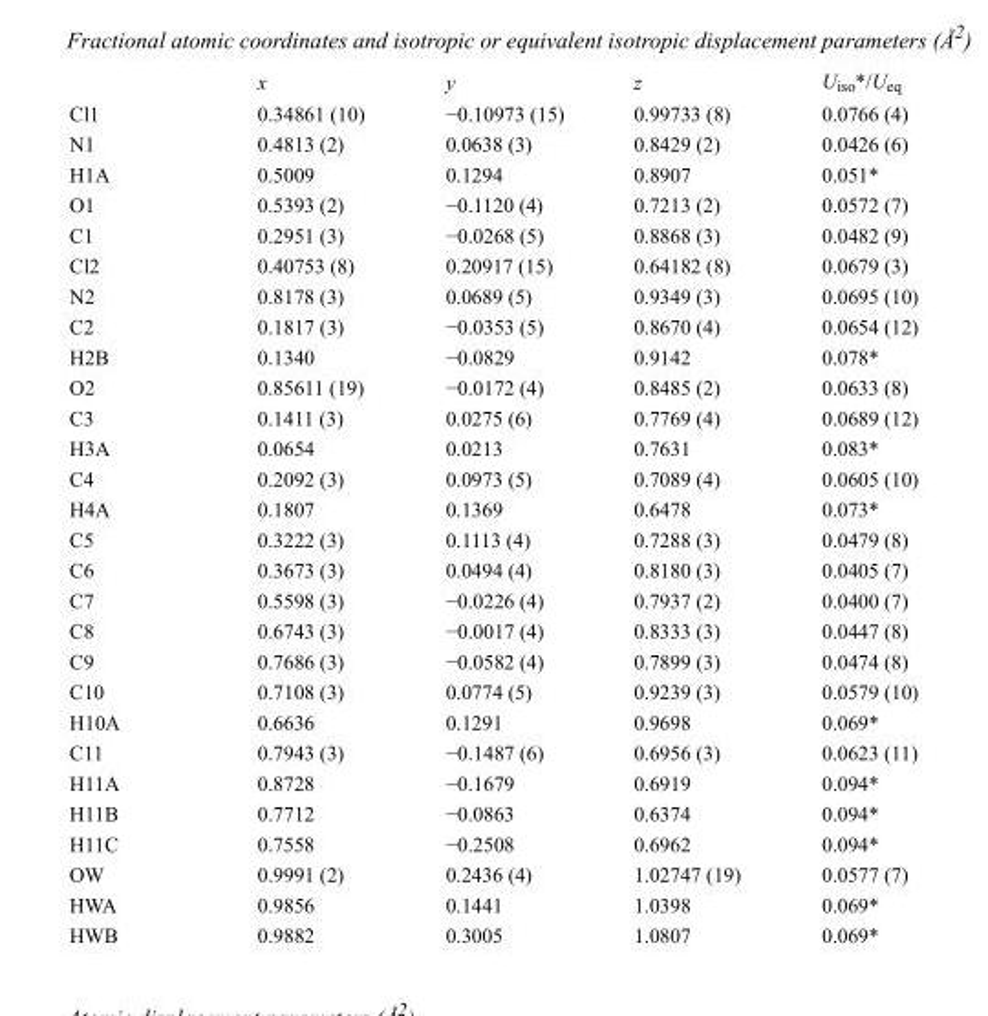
<table><thead><tr><td></td><td>x</td><td>y</td><td>z</td><td>U<sub>iso</sub>*/U<sub>eq</sub></td></tr></thead><tbody><tr><td>Cl1</td><td>0.34861 (10)</td><td>−0.10973 (15)</td><td>0.99733 (8)</td><td>0.0766 (4)</td></tr><tr><td>N1</td><td>0.4813 (2)</td><td>0.0638 (3)</td><td>0.8429 (2)</td><td>0.0426 (6)</td></tr><tr><td>H1A</td><td>0.5009</td><td>0.1294</td><td>0.8907</td><td>0.051*</td></tr><tr><td>O1</td><td>0.5393 (2)</td><td>−0.1120 (4)</td><td>0.7213 (2)</td><td>0.0572 (7)</td></tr><tr><td>C1</td><td>0.2951 (3)</td><td>−0.0268 (5)</td><td>0.8868 (3)</td><td>0.0482 (9)</td></tr><tr><td>Cl2</td><td>0.40753 (8)</td><td>0.20917 (15)</td><td>0.64182 (8)</td><td>0.0679 (3)</td></tr><tr><td>N2</td><td>0.8178 (3)</td><td>0.0689 (5)</td><td>0.9349 (3)</td><td>0.0695 (10)</td></tr><tr><td>C2</td><td>0.1817 (3)</td><td>−0.0353 (5)</td><td>0.8670 (4)</td><td>0.0654 (12)</td></tr><tr><td>H2B</td><td>0.1340</td><td>−0.0829</td><td>0.9142</td><td>0.078*</td></tr><tr><td>O2</td><td>0.85611 (19)</td><td>−0.0172 (4)</td><td>0.8485 (2)</td><td>0.0633 (8)</td></tr><tr><td>C3</td><td>0.1411 (3)</td><td>0.0275 (6)</td><td>0.7769 (4)</td><td>0.0689 (12)</td></tr><tr><td>H3A</td><td>0.0654</td><td>0.0213</td><td>0.7631</td><td>0.083*</td></tr><tr><td>C4</td><td>0.2092 (3)</td><td>0.0973 (5)</td><td>0.7089 (4)</td><td>0.0605 (10)</td></tr><tr><td>H4A</td><td>0.1807</td><td>0.1369</td><td>0.6478</td><td>0.073*</td></tr><tr><td>C5</td><td>0.3222 (3)</td><td>0.1113 (4)</td><td>0.7288 (3)</td><td>0.0479 (8)</td></tr><tr><td>C6</td><td>0.3673 (3)</td><td>0.0494 (4)</td><td>0.8180 (3)</td><td>0.0405 (7)</td></tr><tr><td>C7</td><td>0.5598 (3)</td><td>−0.0226 (4)</td><td>0.7937 (2)</td><td>0.0400 (7)</td></tr><tr><td>C8</td><td>0.6743 (3)</td><td>−0.0017 (4)</td><td>0.8333 (3)</td><td>0.0447 (8)</td></tr><tr><td>C9</td><td>0.7686 (3)</td><td>−0.0582 (4)</td><td>0.7899 (3)</td><td>0.0474 (8)</td></tr><tr><td>C10</td><td>0.7108 (3)</td><td>0.0774 (5)</td><td>0.9239 (3)</td><td>0.0579 (10)</td></tr><tr><td>H10A</td><td>0.6636</td><td>0.1291</td><td>0.9698</td><td>0.069*</td></tr><tr><td>C11</td><td>0.7943 (3)</td><td>−0.1487 (6)</td><td>0.6956 (3)</td><td>0.0623 (11)</td></tr><tr><td>H11A</td><td>0.8728</td><td>−0.1679</td><td>0.6919</td><td>0.094*</td></tr><tr><td>H11B</td><td>0.7712</td><td>−0.0863</td><td>0.6374</td><td>0.094*</td></tr><tr><td>H11C</td><td>0.7558</td><td>−0.2508</td><td>0.6962</td><td>0.094*</td></tr><tr><td>OW</td><td>0.9991 (2)</td><td>0.2436 (4)</td><td>1.02747 (19)</td><td>0.0577 (7)</td></tr><tr><td>HWA</td><td>0.9856</td><td>0.1441</td><td>1.0398</td><td>0.069*</td></tr><tr><td>HWB</td><td>0.9882</td><td>0.3005</td><td>1.0807</td><td>0.069*</td></tr></tbody></table>